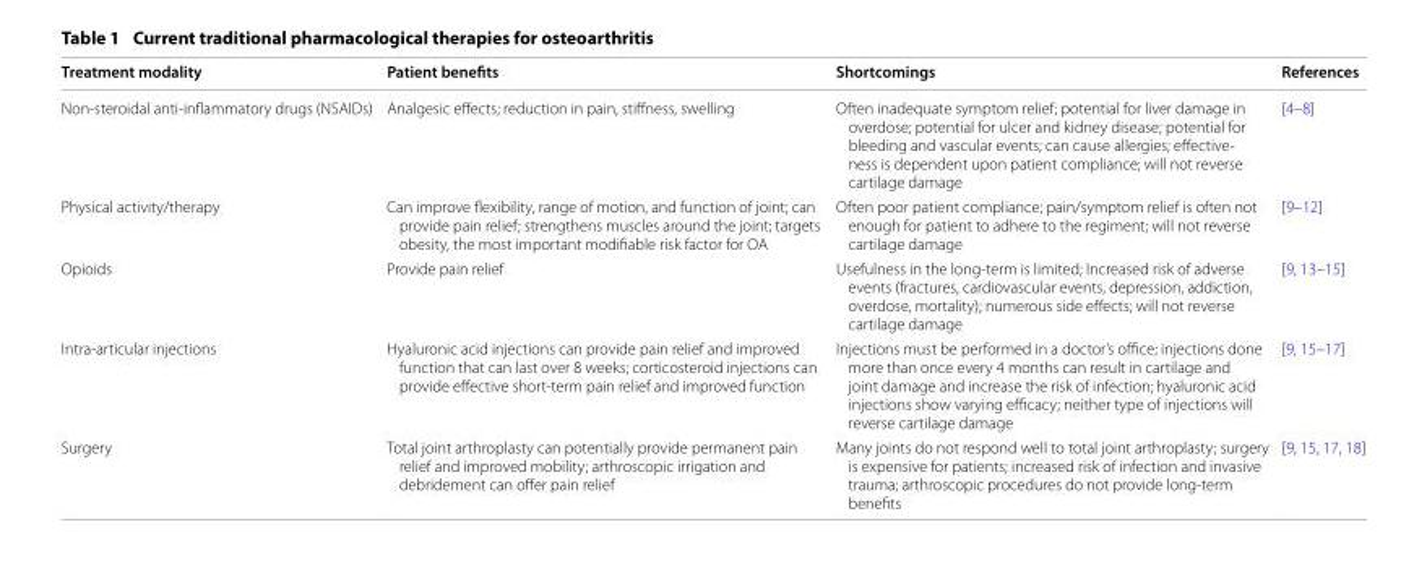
<table><thead><tr><td>Treatment modality</td><td>Patient benefits</td><td>Shortcomings</td><td>References</td></tr></thead><tbody><tr><td>Non-steroidal anti-inflammatory drugs (NSAIDs)</td><td>Analgesic effects; reduction in pain, stiffness, swelling</td><td>Often inadequate symptom relief; potential for liver damage in overdose; potential for ulcer and kidney disease; potential for bleeding and vascular events; can cause allergies; effective- ness is dependent upon patient compliance; will not reverse cartilage damage</td><td>[4–8]</td></tr><tr><td>Physical activity/therapy</td><td>Can improve flexibility, range of motion, and function of joint; can provide pain relief; strengthens muscles around the joint; targets obesity, the most important modifiable risk factor for OA</td><td>Often poor patient compliance; pain/symptom relief is often not enough for patient to adhere to the regiment; will not reverse cartilage damage</td><td>[9–12]</td></tr><tr><td>Opioids</td><td>Provide pain relief</td><td>Usefulness in the long-term is limited; Increased risk of adverse events (fractures, cardiovascular events, depression, addiction, overdose, mortality); numerous side effects; will not reverse cartilage damage</td><td>[9, 13–15]</td></tr><tr><td>Intra-articular injections</td><td>Hyaluronic acid injections can provide pain relief and improved function that can last over 8 weeks; corticosteroid injections can provide effective short-term pain relief and improved function</td><td>Injections must be performed in a doctor’s office; injections done more than once every 4 months can result in cartilage and joint damage and increase the risk of infection; hyaluronic acid injections show varying efficacy; neither type of injections will reverse cartilage damage</td><td>[9, 15–17]</td></tr><tr><td>Surgery</td><td>Total joint arthroplasty can potentially provide permanent pain relief and improved mobility; arthroscopic irrigation and debridement can offer pain relief</td><td>Many joints do not respond well to total joint arthroplasty; surgery is expensive for patients; increased risk of infection and invasive trauma; arthroscopic procedures do not provide long-term benefits</td><td>[9, 15, 17, 18]</td></tr></tbody></table>